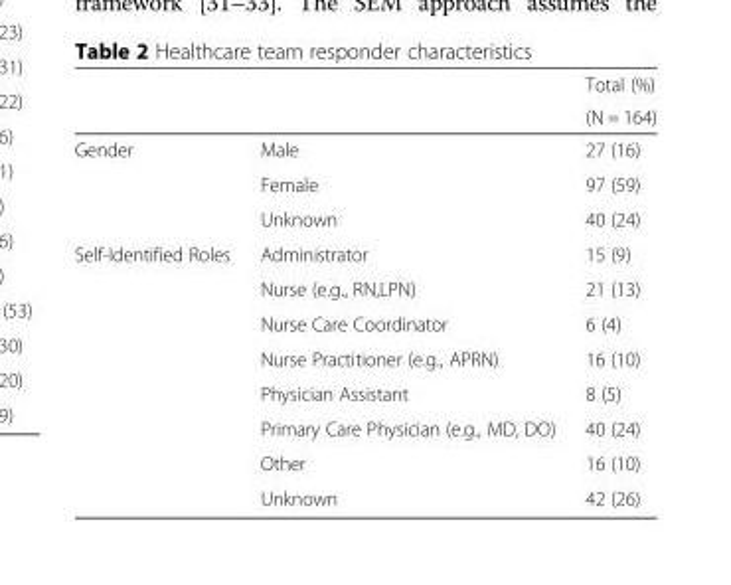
<table><thead><tr><td rowspan="2"></td><td rowspan="2"></td><td rowspan="2">Total (%) (N = 164)</td></tr><tr></tr></thead><tbody><tr><td rowspan="3">Gender</td><td>Male</td><td>27 (16)</td></tr><tr><td>Female</td><td>97 (59)</td></tr><tr><td>Unknown</td><td>40 (24)</td></tr><tr><td rowspan="8">Self-Identified Roles</td><td>Administrator</td><td>15 (9)</td></tr><tr><td>Nurse (e.g., RN,LPN)</td><td>21 (13)</td></tr><tr><td>Nurse Care Coordinator</td><td>6 (4)</td></tr><tr><td>Nurse Practitioner (e.g., APRN)</td><td>16 (10)</td></tr><tr><td>Physician Assistant</td><td>8 (5)</td></tr><tr><td>Primary Care Physician (e.g., MD, DO)</td><td>40 (24)</td></tr><tr><td>Other</td><td>16 (10)</td></tr><tr><td>Unknown</td><td>42 (26)</td></tr></tbody></table>